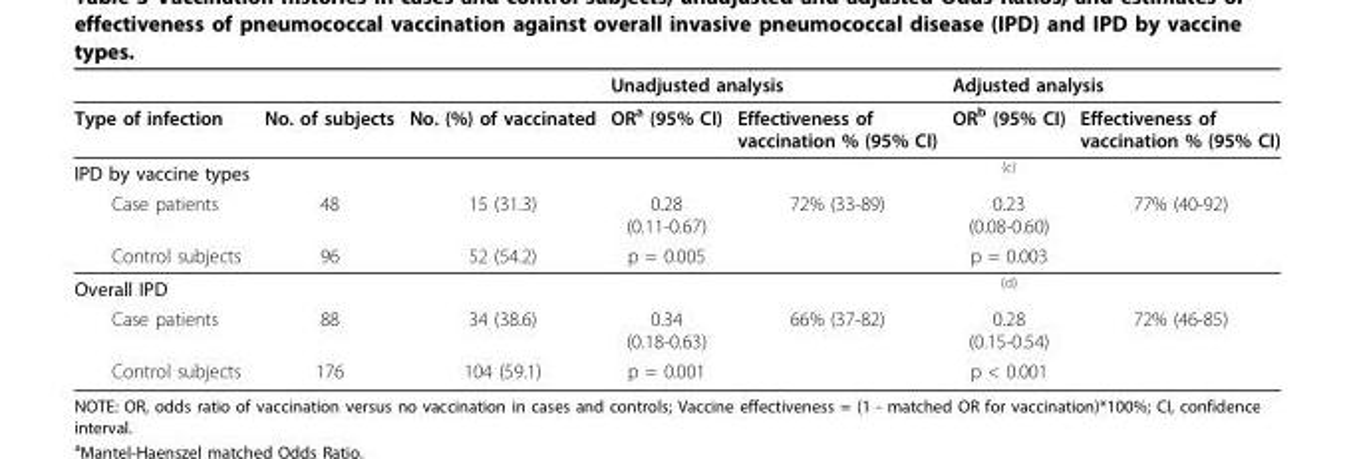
<table><thead><tr><td rowspan="2">Type of infection</td><td rowspan="2">No. of subjects</td><td rowspan="2">No. (%) of vaccinated</td><td colspan="2">Unadjusted analysis</td><td colspan="2">Adjusted analysis</td></tr><tr><td>OR<sup>a</sup> (95% CI)</td><td>Effectiveness of vaccination % (95% CI)</td><td>OR<sup>b</sup> (95% CI)</td><td>Effectiveness of vaccination % (95% CI)</td></tr></thead><tbody><tr><td>IPD by vaccine types</td><td></td><td></td><td></td><td></td><td><sup>(c)</sup></td><td></td></tr><tr><td>Case patients</td><td>48</td><td>15 (31.3)</td><td>0.28 (0.11-0.67)</td><td>72% (33-89)</td><td>0.23 (0.08-0.60)</td><td>77% (40-92)</td></tr><tr><td>Control subjects</td><td>96</td><td>52 (54.2)</td><td>p = 0.005</td><td></td><td>p = 0.003</td><td></td></tr><tr><td>Overall IPD</td><td></td><td></td><td></td><td></td><td><sup>(d)</sup></td><td></td></tr><tr><td>Case patients</td><td>88</td><td>34 (38.6)</td><td>0.34 (0.18-0.63)</td><td>66% (37-82)</td><td>0.28 (0.15-0.54)</td><td>72% (46-85)</td></tr><tr><td>Control subjects</td><td>176</td><td>104 (59.1)</td><td>p = 0.001</td><td></td><td>p &lt; 0.001</td><td></td></tr></tbody></table>